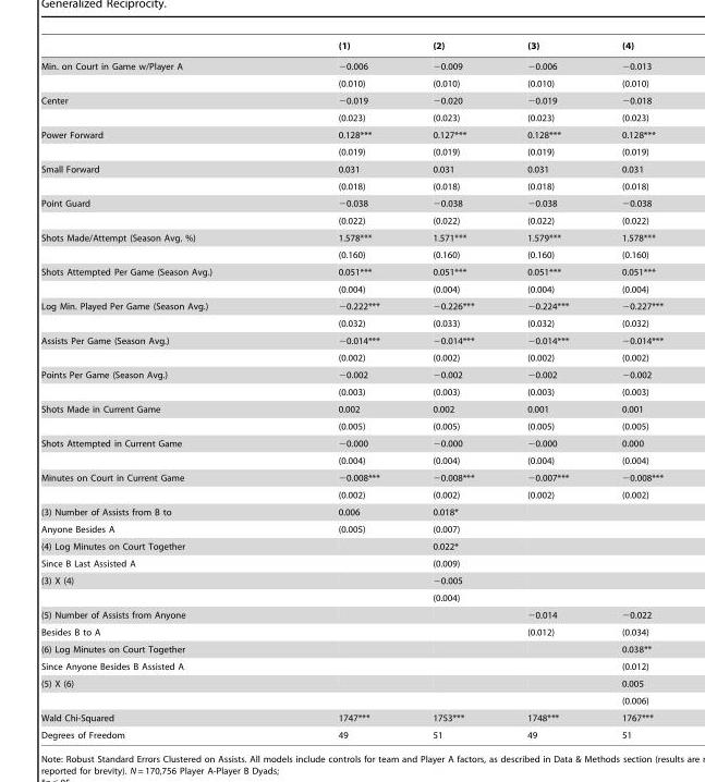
<table><thead><tr><td></td><td>(1)</td><td>(2)</td><td>(3)</td><td>(4)</td></tr></thead><tbody><tr><td rowspan="2">Min. on Court in Game w/Player A</td><td>−0.006</td><td>−0.009</td><td>−0.006</td><td>−0.013</td></tr><tr><td>(0.010)</td><td>(0.010)</td><td>(0.010)</td><td>(0.010)</td></tr><tr><td rowspan="2">Center</td><td>−0.019</td><td>−0.020</td><td>−0.019</td><td>−0.018</td></tr><tr><td>(0.023)</td><td>(0.023)</td><td>(0.023)</td><td>(0.023)</td></tr><tr><td rowspan="2">Power Forward</td><td>0.128***</td><td>0.127***</td><td>0.128***</td><td>0.128***</td></tr><tr><td>(0.019)</td><td>(0.019)</td><td>(0.019)</td><td>(0.019)</td></tr><tr><td rowspan="2">Small Forward</td><td>0.031</td><td>0.031</td><td>0.031</td><td>0.031</td></tr><tr><td>(0.018)</td><td>(0.018)</td><td>(0.018)</td><td>(0.018)</td></tr><tr><td rowspan="2">Point Guard</td><td>−0.038</td><td>−0.038</td><td>−0.038</td><td>−0.038</td></tr><tr><td>(0.022)</td><td>(0.022)</td><td>(0.022)</td><td>(0.022)</td></tr><tr><td rowspan="2">Shots Made/Attempt (Season Avg. %)</td><td>1.578***</td><td>1.571***</td><td>1.579***</td><td>1.578***</td></tr><tr><td>(0.160)</td><td>(0.160)</td><td>(0.160)</td><td>(0.160)</td></tr><tr><td rowspan="2">Shots Attempted Per Game (Season Avg.)</td><td>0.051***</td><td>0.051***</td><td>0.051***</td><td>0.051***</td></tr><tr><td>(0.004)</td><td>(0.004)</td><td>(0.004)</td><td>(0.004)</td></tr><tr><td rowspan="2">Log Min. Played Per Game (Season Avg.)</td><td>−0.222***</td><td>−0.226***</td><td>−0.224***</td><td>−0.227***</td></tr><tr><td>(0.032)</td><td>(0.033)</td><td>(0.032)</td><td>(0.032)</td></tr><tr><td rowspan="2">Assists Per Game (Season Avg.)</td><td>−0.014***</td><td>−0.014***</td><td>−0.014***</td><td>−0.014***</td></tr><tr><td>(0.002)</td><td>(0.002)</td><td>(0.002)</td><td>(0.002)</td></tr><tr><td rowspan="2">Points Per Game (Season Avg.)</td><td>−0.002</td><td>−0.002</td><td>−0.002</td><td>−0.002</td></tr><tr><td>(0.003)</td><td>(0.003)</td><td>(0.003)</td><td>(0.003)</td></tr><tr><td rowspan="2">Shots Made in Current Game</td><td>0.002</td><td>0.002</td><td>0.001</td><td>0.001</td></tr><tr><td>(0.005)</td><td>(0.005)</td><td>(0.005)</td><td>(0.005)</td></tr><tr><td rowspan="2">Shots Attempted in Current Game</td><td>−0.000</td><td>−0.000</td><td>−0.000</td><td>0.000</td></tr><tr><td>(0.004)</td><td>(0.004)</td><td>(0.004)</td><td>(0.004)</td></tr><tr><td rowspan="2">Minutes on Court in Current Game</td><td>−0.008***</td><td>−0.008***</td><td>−0.007***</td><td>−0.008***</td></tr><tr><td>(0.002)</td><td>(0.002)</td><td>(0.002)</td><td>(0.002)</td></tr><tr><td>(3) Number of Assists from B to</td><td>0.006</td><td>0.018*</td><td></td><td></td></tr><tr><td>Anyone Besides A</td><td>(0.005)</td><td>(0.007)</td><td></td><td></td></tr><tr><td>(4) Log Minutes on Court Together</td><td></td><td>0.022*</td><td></td><td></td></tr><tr><td>Since B Last Assisted A</td><td></td><td>(0.009)</td><td></td><td></td></tr><tr><td rowspan="2">(3) X (4)</td><td></td><td>−0.005</td><td></td><td></td></tr><tr><td></td><td>(0.004)</td><td></td><td></td></tr><tr><td>(5) Number of Assists from Anyone</td><td></td><td></td><td>−0.014</td><td>−0.022</td></tr><tr><td>Besides B to A</td><td></td><td></td><td>(0.012)</td><td>(0.034)</td></tr><tr><td>(6) Log Minutes on Court Together</td><td></td><td></td><td></td><td>0.038**</td></tr><tr><td>Since Anyone Besides B Assisted A</td><td></td><td></td><td></td><td>(0.012)</td></tr><tr><td rowspan="2">(5) X (6)</td><td></td><td></td><td></td><td>0.005</td></tr><tr><td></td><td></td><td></td><td>(0.006)</td></tr><tr><td>Wald Chi-Squared</td><td>1747***</td><td>1753***</td><td>1748***</td><td>1767***</td></tr><tr><td>Degrees of Freedom</td><td>49</td><td>51</td><td>49</td><td>51</td></tr></tbody></table>